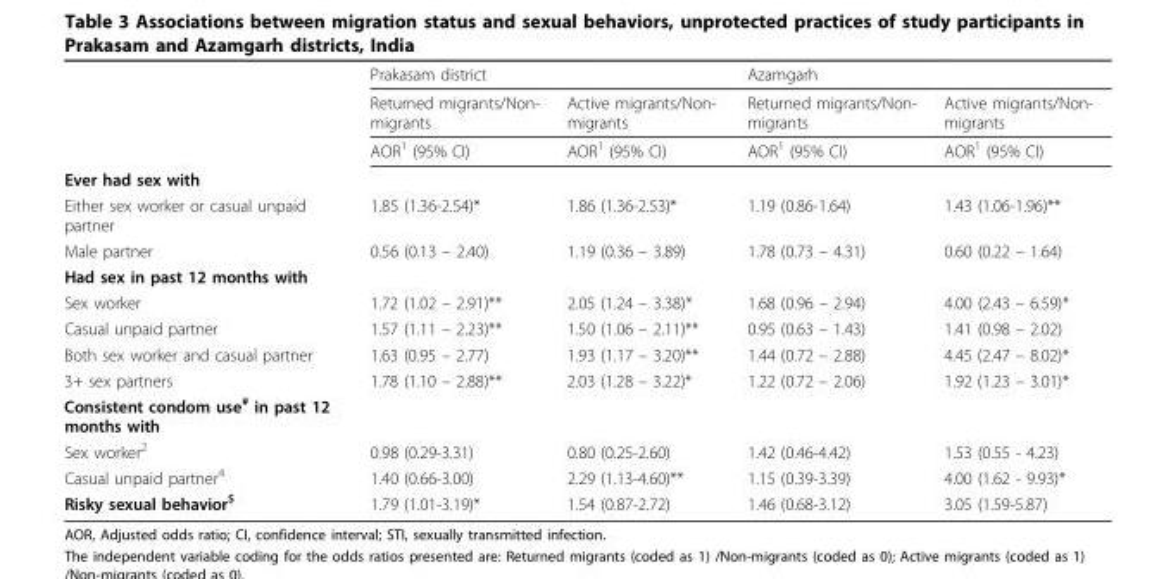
<table><thead><tr><td rowspan="2"></td><td colspan="2">Prakasam district</td><td colspan="2">Azamgarh</td></tr><tr><td>Returned migrants/Non- migrants</td><td>Active migrants/Non- migrants</td><td>Returned migrants/Non- migrants</td><td>Active migrants/Non- migrants</td></tr></thead><tbody><tr><td></td><td>AOR<sup>1</sup> (95% CI)</td><td>AOR<sup>1</sup> (95% CI)</td><td>AOR<sup>1</sup> (95% CI)</td><td>AOR<sup>1</sup> (95% CI)</td></tr><tr><td colspan="5">Ever had sex with</td></tr><tr><td>Either sex worker or casual unpaid partner</td><td>1.85 (1.36-2.54)*</td><td>1.86 (1.36-2.53)*</td><td>1.19 (0.86-1.64)</td><td>1.43 (1.06-1.96)**</td></tr><tr><td>Male partner</td><td>0.56 (0.13 – 2.40)</td><td>1.19 (0.36 – 3.89)</td><td>1.78 (0.73 – 4.31)</td><td>0.60 (0.22 – 1.64)</td></tr><tr><td colspan="5">Had sex in past 12 months with</td></tr><tr><td>Sex worker</td><td>1.72 (1.02 – 2.91)**</td><td>2.05 (1.24 – 3.38)*</td><td>1.68 (0.96 – 2.94)</td><td>4.00 (2.43 – 6.59)*</td></tr><tr><td>Casual unpaid partner</td><td>1.57 (1.11 – 2.23)**</td><td>1.50 (1.06 – 2.11)**</td><td>0.95 (0.63 – 1.43)</td><td>1.41 (0.98 – 2.02)</td></tr><tr><td>Both sex worker and casual partner</td><td>1.63 (0.95 – 2.77)</td><td>1.93 (1.17 – 3.20)**</td><td>1.44 (0.72 – 2.88)</td><td>4.45 (2.47 – 8.02)*</td></tr><tr><td>3+ sex partners</td><td>1.78 (1.10 – 2.88)**</td><td>2.03 (1.28 – 3.22)*</td><td>1.22 (0.72 – 2.06)</td><td>1.92 (1.23 – 3.01)*</td></tr><tr><td colspan="5">Consistent condom use<sup>#</sup> in past 12 months with</td></tr><tr><td>Sex worker<sup>2</sup></td><td>0.98 (0.29-3.31)</td><td>0.80 (0.25-2.60)</td><td>1.42 (0.46-4.42)</td><td>1.53 (0.55 - 4.23)</td></tr><tr><td>Casual unpaid partner<sup>4</sup></td><td>1.40 (0.66-3.00)</td><td>2.29 (1.13-4.60)**</td><td>1.15 (0.39-3.39)</td><td>4.00 (1.62 - 9.93)*</td></tr><tr><td>Risky sexual behavior<sup>$</sup></td><td>1.79 (1.01-3.19)*</td><td>1.54 (0.87-2.72)</td><td>1.46 (0.68-3.12)</td><td>3.05 (1.59-5.87)</td></tr></tbody></table>